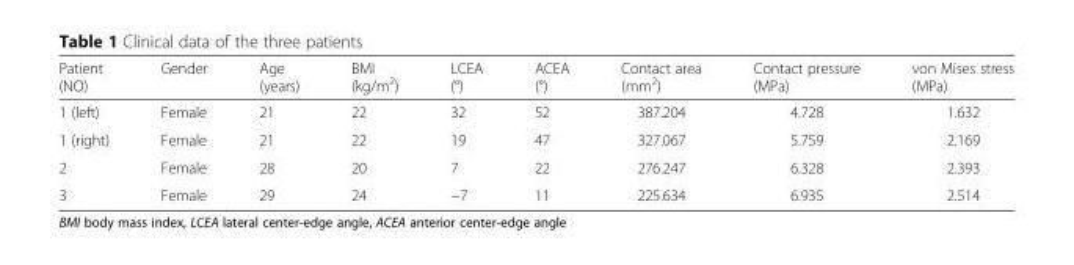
<table><thead><tr><td>Patient (NO)</td><td>Gender</td><td>Age (years)</td><td>BMI (kg/m<sup>2</sup>)</td><td>LCEA (°)</td><td>ACEA (°)</td><td>Contact area (mm<sup>2</sup>)</td><td>Contact pressure (MPa)</td><td>von Mises stress (MPa)</td></tr></thead><tbody><tr><td>1 (left)</td><td>Female</td><td>21</td><td>22</td><td>32</td><td>52</td><td>387.204</td><td>4.728</td><td>1.632</td></tr><tr><td>1 (right)</td><td>Female</td><td>21</td><td>22</td><td>19</td><td>47</td><td>327.067</td><td>5.759</td><td>2.169</td></tr><tr><td>2</td><td>Female</td><td>28</td><td>20</td><td>7</td><td>22</td><td>276.247</td><td>6.328</td><td>2.393</td></tr><tr><td>3</td><td>Female</td><td>29</td><td>24</td><td>−7</td><td>11</td><td>225.634</td><td>6.935</td><td>2.514</td></tr></tbody></table>